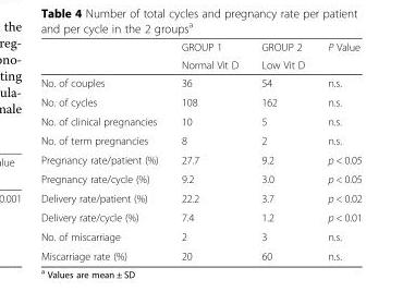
<table><thead><tr><td rowspan="2"></td><td rowspan="2">GROUP 1 Normal Vit D</td><td rowspan="2">GROUP 2 Low Vit D</td><td rowspan="2">P Value</td></tr><tr></tr></thead><tbody><tr><td>No. of couples</td><td>36</td><td>54</td><td>n.s.</td></tr><tr><td>No. of cycles</td><td>108</td><td>162</td><td>n.s.</td></tr><tr><td>No. of clinical pregnancies</td><td>10</td><td>5</td><td>n.s.</td></tr><tr><td>No. of term pregnancies</td><td>8</td><td>2</td><td>n.s.</td></tr><tr><td>Pregnancy rate/patient (%)</td><td>27.7</td><td>9.2</td><td>p &lt; 0.05</td></tr><tr><td>Pregnancy rate/cycle (%)</td><td>9.2</td><td>3.0</td><td>p &lt; 0.05</td></tr><tr><td>Delivery rate/patient (%)</td><td>22.2</td><td>3.7</td><td>p &lt; 0.02</td></tr><tr><td>Delivery rate/cycle (%)</td><td>7.4</td><td>1.2</td><td>p &lt; 0.01</td></tr><tr><td>No. of miscarriage</td><td>2</td><td>3</td><td>n.s.</td></tr><tr><td>Miscarriage rate (%)</td><td>20</td><td>60</td><td>n.s.</td></tr></tbody></table>